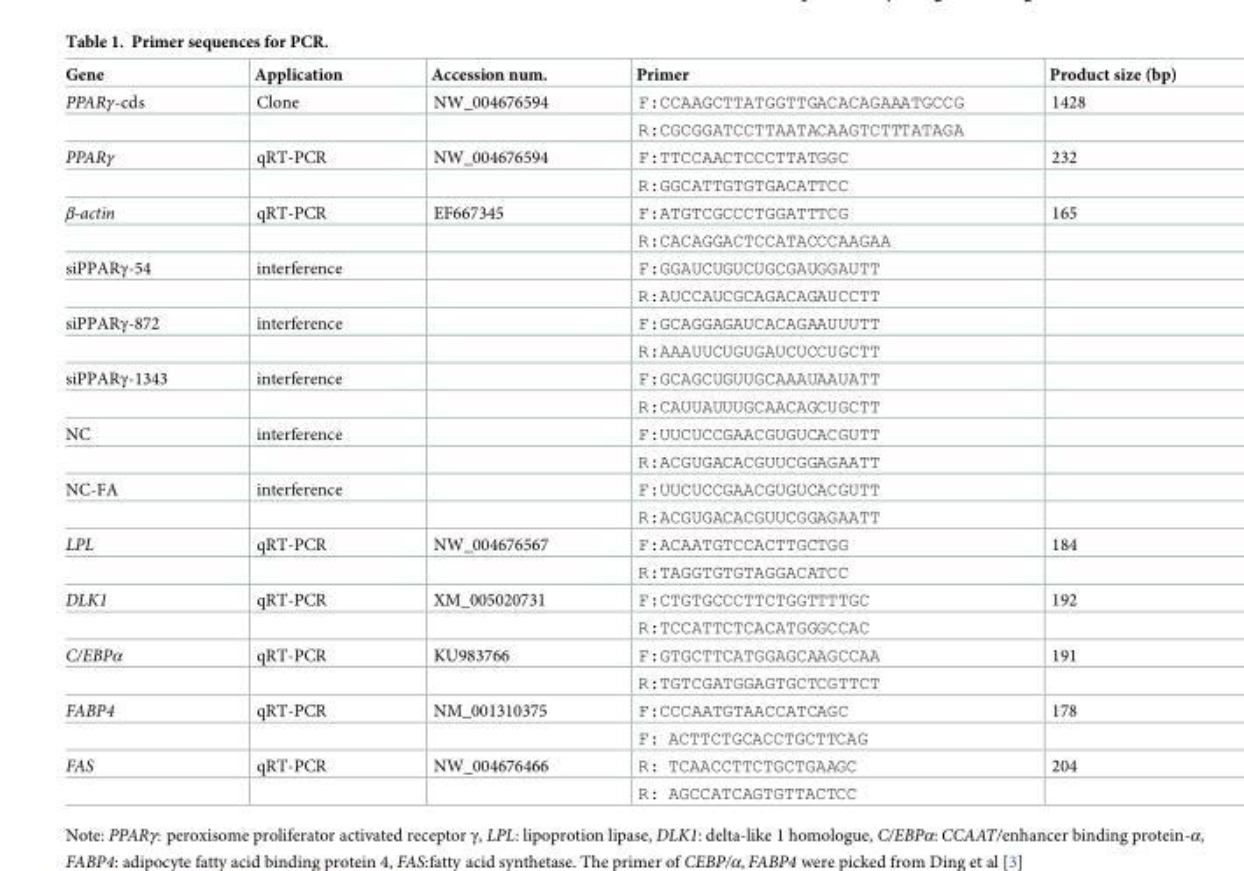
<table><thead><tr><td>Gene</td><td>Application</td><td>Accession num.</td><td>Primer</td><td>Product size (bp)</td></tr></thead><tbody><tr><td rowspan="2">PPARγ-cds</td><td>Clone</td><td>NW_004676594</td><td>F:CCAAGCTTATGGTTGACACAGAAATGCCG</td><td>1428</td></tr><tr><td></td><td></td><td>R:CGCGGATCCTTAATACAAGTCTTTATAGA</td><td></td></tr><tr><td rowspan="2">PPARγ</td><td>qRT-PCR</td><td>NW_004676594</td><td>F:TTCCAACTCCCTTATGGC</td><td>232</td></tr><tr><td></td><td></td><td>R:GGCATTGTGTGACATTCC</td><td></td></tr><tr><td rowspan="2">β-actin</td><td>qRT-PCR</td><td>EF667345</td><td>F:ATGTCGCCCTGGATTTCG</td><td>165</td></tr><tr><td></td><td></td><td>R:CACAGGACTCCATACCCAAGAA</td><td></td></tr><tr><td rowspan="2">siPPARγ-54</td><td>interference</td><td></td><td>F:GGAUCUGUCUGCGAUGGAUTT</td><td></td></tr><tr><td></td><td></td><td>R:AUCCAUCGCAGACAGAUCCTT</td><td></td></tr><tr><td rowspan="2">siPPARγ-872</td><td>interference</td><td></td><td>F:GCAGGAGAUCACAGAAUUUTT</td><td></td></tr><tr><td></td><td></td><td>R:AAAUUCUGUGAUCUCCUGCTT</td><td></td></tr><tr><td rowspan="2">siPPARγ-1343</td><td>interference</td><td></td><td>F:GCAGCUGUUGCAAAUAAUATT</td><td></td></tr><tr><td></td><td></td><td>R:CAUUAUUUGCAACAGCUGCTT</td><td></td></tr><tr><td rowspan="2">NC</td><td>interference</td><td></td><td>F:UUCUCCGAACGUGUCACGUTT</td><td></td></tr><tr><td></td><td></td><td>R:ACGUGACACGUUCGGAGAATT</td><td></td></tr><tr><td rowspan="2">NC-FA</td><td>interference</td><td></td><td>F:UUCUCCGAACGUGUCACGUTT</td><td></td></tr><tr><td></td><td></td><td>R:ACGUGACACGUUCGGAGAATT</td><td></td></tr><tr><td rowspan="2">LPL</td><td>qRT-PCR</td><td>NW_004676567</td><td>F:ACAATGTCCACTTGCTGG</td><td>184</td></tr><tr><td></td><td></td><td>R:TAGGTGTGTAGGACATCC</td><td></td></tr><tr><td rowspan="2">DLK1</td><td>qRT-PCR</td><td>XM_005020731</td><td>F:CTGTGCCCTTCTGGTTTTGC</td><td>192</td></tr><tr><td></td><td></td><td>R:TCCATTCTCACATGGGCCAC</td><td></td></tr><tr><td rowspan="2">C/EBPα</td><td>qRT-PCR</td><td>KU983766</td><td>F:GTGCTTCATGGAGCAAGCCAA</td><td>191</td></tr><tr><td></td><td></td><td>R:TGTCGATGGAGTGCTCGTTCT</td><td></td></tr><tr><td rowspan="2">FABP4</td><td>qRT-PCR</td><td>NM_001310375</td><td>F:CCCAATGTAACCATCAGC</td><td>178</td></tr><tr><td></td><td></td><td>F: ACTTCTGCACCTGCTTCAG</td><td></td></tr><tr><td rowspan="2">FAS</td><td>qRT-PCR</td><td>NW_004676466</td><td>R: TCAACCTTCTGCTGAAGC</td><td>204</td></tr><tr><td></td><td></td><td>R: AGCCATCAGTGTTACTCC</td><td></td></tr></tbody></table>